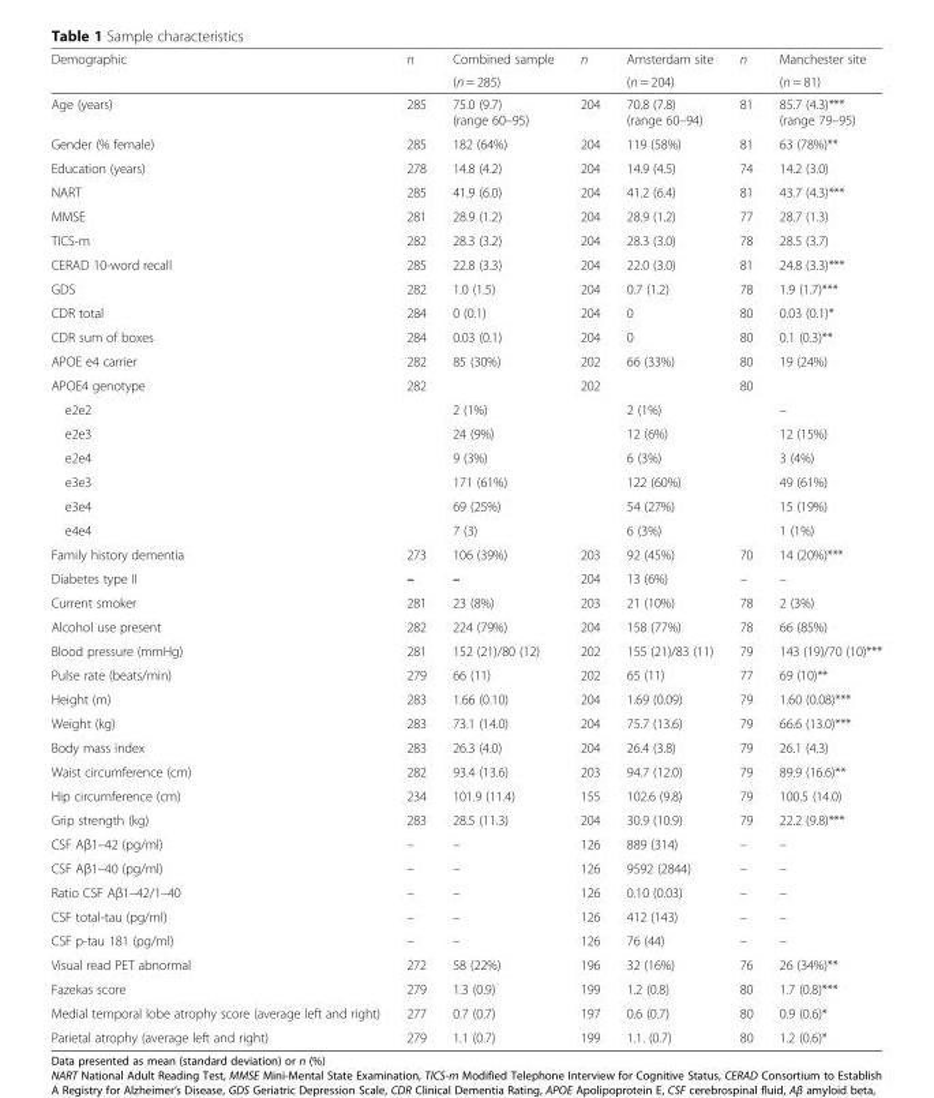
<table><thead><tr><td rowspan="2">Demographic</td><td rowspan="2">n</td><td rowspan="2">Combined sample (n = 285)</td><td rowspan="2">n</td><td rowspan="2">Amsterdam site (n = 204)</td><td rowspan="2">n</td><td rowspan="2">Manchester site (n = 81)</td></tr><tr></tr></thead><tbody><tr><td>Age (years)</td><td>285</td><td>75.0 (9.7) (range 60–95)</td><td>204</td><td>70.8 (7.8) (range 60–94)</td><td>81</td><td>85.7 (4.3)*** (range 79–95)</td></tr><tr><td>Gender (% female)</td><td>285</td><td>182 (64%)</td><td>204</td><td>119 (58%)</td><td>81</td><td>63 (78%)**</td></tr><tr><td>Education (years)</td><td>278</td><td>14.8 (4.2)</td><td>204</td><td>14.9 (4.5)</td><td>74</td><td>14.2 (3.0)</td></tr><tr><td>NART</td><td>285</td><td>41.9 (6.0)</td><td>204</td><td>41.2 (6.4)</td><td>81</td><td>43.7 (4.3)***</td></tr><tr><td>MMSE</td><td>281</td><td>28.9 (1.2)</td><td>204</td><td>28.9 (1.2)</td><td>77</td><td>28.7 (1.3)</td></tr><tr><td>TICS-m</td><td>282</td><td>28.3 (3.2)</td><td>204</td><td>28.3 (3.0)</td><td>78</td><td>28.5 (3.7)</td></tr><tr><td>CERAD 10-word recall</td><td>285</td><td>22.8 (3.3)</td><td>204</td><td>22.0 (3.0)</td><td>81</td><td>24.8 (3.3)***</td></tr><tr><td>GDS</td><td>282</td><td>1.0 (1.5)</td><td>204</td><td>0.7 (1.2)</td><td>78</td><td>1.9 (1.7)***</td></tr><tr><td>CDR total</td><td>284</td><td>0 (0.1)</td><td>204</td><td>0</td><td>80</td><td>0.03 (0.1)*</td></tr><tr><td>CDR sum of boxes</td><td>284</td><td>0.03 (0.1)</td><td>204</td><td>0</td><td>80</td><td>0.1 (0.3)**</td></tr><tr><td>APOE e4 carrier</td><td>282</td><td>85 (30%)</td><td>202</td><td>66 (33%)</td><td>80</td><td>19 (24%)</td></tr><tr><td>APOE4 genotype</td><td>282</td><td></td><td>202</td><td></td><td>80</td><td></td></tr><tr><td>e2e2</td><td></td><td>2 (1%)</td><td></td><td>2 (1%)</td><td></td><td>–</td></tr><tr><td>e2e3</td><td></td><td>24 (9%)</td><td></td><td>12 (6%)</td><td></td><td>12 (15%)</td></tr><tr><td>e2e4</td><td></td><td>9 (3%)</td><td></td><td>6 (3%)</td><td></td><td>3 (4%)</td></tr><tr><td>e3e3</td><td></td><td>171 (61%)</td><td></td><td>122 (60%)</td><td></td><td>49 (61%)</td></tr><tr><td>e3e4</td><td></td><td>69 (25%)</td><td></td><td>54 (27%)</td><td></td><td>15 (19%)</td></tr><tr><td>e4e4</td><td></td><td>7 (3)</td><td></td><td>6 (3%)</td><td></td><td>1 (1%)</td></tr><tr><td>Family history dementia</td><td>273</td><td>106 (39%)</td><td>203</td><td>92 (45%)</td><td>70</td><td>14 (20%)***</td></tr><tr><td>Diabetes type II</td><td>–</td><td>–</td><td>204</td><td>13 (6%)</td><td>–</td><td>–</td></tr><tr><td>Current smoker</td><td>281</td><td>23 (8%)</td><td>203</td><td>21 (10%)</td><td>78</td><td>2 (3%)</td></tr><tr><td>Alcohol use present</td><td>282</td><td>224 (79%)</td><td>204</td><td>158 (77%)</td><td>78</td><td>66 (85%)</td></tr><tr><td>Blood pressure (mmHg)</td><td>281</td><td>152 (21)/80 (12)</td><td>202</td><td>155 (21)/83 (11)</td><td>79</td><td>143 (19)/70 (10)***</td></tr><tr><td>Pulse rate (beats/min)</td><td>279</td><td>66 (11)</td><td>202</td><td>65 (11)</td><td>77</td><td>69 (10)**</td></tr><tr><td>Height (m)</td><td>283</td><td>1.66 (0.10)</td><td>204</td><td>1.69 (0.09)</td><td>79</td><td>1.60 (0.08)***</td></tr><tr><td>Weight (kg)</td><td>283</td><td>73.1 (14.0)</td><td>204</td><td>75.7 (13.6)</td><td>79</td><td>66.6 (13.0)***</td></tr><tr><td>Body mass index</td><td>283</td><td>26.3 (4.0)</td><td>204</td><td>26.4 (3.8)</td><td>79</td><td>26.1 (4.3)</td></tr><tr><td>Waist circumference (cm)</td><td>282</td><td>93.4 (13.6)</td><td>203</td><td>94.7 (12.0)</td><td>79</td><td>89.9 (16.6)**</td></tr><tr><td>Hip circumference (cm)</td><td>234</td><td>101.9 (11.4)</td><td>155</td><td>102.6 (9.8)</td><td>79</td><td>100.5 (14.0)</td></tr><tr><td>Grip strength (kg)</td><td>283</td><td>28.5 (11.3)</td><td>204</td><td>30.9 (10.9)</td><td>79</td><td>22.2 (9.8)***</td></tr><tr><td>CSF Aβ1–42 (pg/ml)</td><td>–</td><td>–</td><td>126</td><td>889 (314)</td><td>–</td><td>–</td></tr><tr><td>CSF Aβ1–40 (pg/ml)</td><td>–</td><td>–</td><td>126</td><td>9592 (2844)</td><td>–</td><td>–</td></tr><tr><td>Ratio CSF Aβ1–42/1–40</td><td>–</td><td>–</td><td>126</td><td>0.10 (0.03)</td><td>–</td><td>–</td></tr><tr><td>CSF total-tau (pg/ml)</td><td>–</td><td>–</td><td>126</td><td>412 (143)</td><td>–</td><td>–</td></tr><tr><td>CSF p-tau 181 (pg/ml)</td><td>–</td><td>–</td><td>126</td><td>76 (44)</td><td>–</td><td>–</td></tr><tr><td>Visual read PET abnormal</td><td>272</td><td>58 (22%)</td><td>196</td><td>32 (16%)</td><td>76</td><td>26 (34%)**</td></tr><tr><td>Fazekas score</td><td>279</td><td>1.3 (0.9)</td><td>199</td><td>1.2 (0.8)</td><td>80</td><td>1.7 (0.8)***</td></tr><tr><td>Medial temporal lobe atrophy score (average left and right)</td><td>277</td><td>0.7 (0.7)</td><td>197</td><td>0.6 (0.7)</td><td>80</td><td>0.9 (0.6)*</td></tr><tr><td>Parietal atrophy (average left and right)</td><td>279</td><td>1.1 (0.7)</td><td>199</td><td>1.1. (0.7)</td><td>80</td><td>1.2 (0.6)*</td></tr></tbody></table>